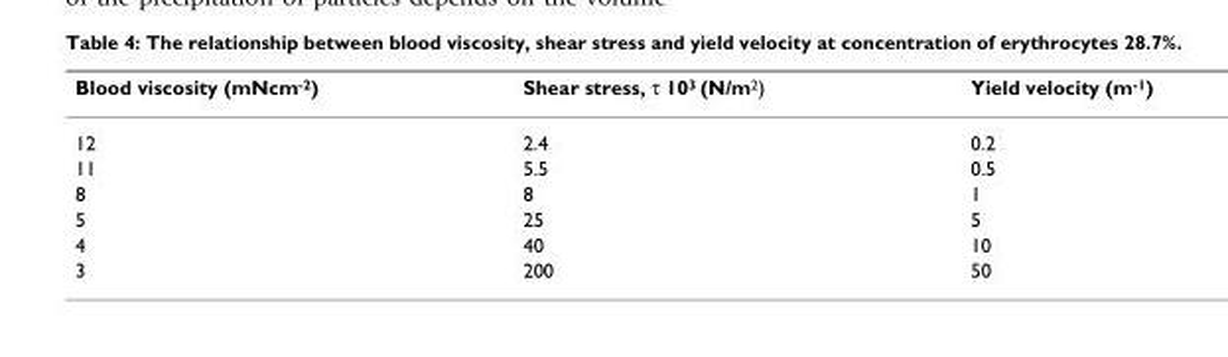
<table><thead><tr><td>Blood viscosity (mNcm<sup>-2</sup>)</td><td>Shear stress, τ 10<sup>3</sup> (N/m<sup>2</sup>)</td><td>Yield velocity (m<sup>-1</sup>)</td></tr></thead><tbody><tr><td>12</td><td>2.4</td><td>0.2</td></tr><tr><td>11</td><td>5.5</td><td>0.5</td></tr><tr><td>8</td><td>8</td><td>1</td></tr><tr><td>5</td><td>25</td><td>5</td></tr><tr><td>4</td><td>40</td><td>10</td></tr><tr><td>3</td><td>200</td><td>50</td></tr></tbody></table>